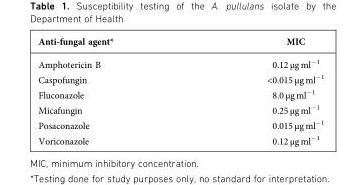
<table><thead><tr><td>Anti-fungal agent*</td><td>MIC</td></tr></thead><tbody><tr><td>Amphotericin B</td><td>0.12 µg ml<sup>−1</sup></td></tr><tr><td>Caspofungin</td><td>&lt;0.015 µg ml<sup>−1</sup></td></tr><tr><td>Fluconazole</td><td>8.0 µg ml<sup>−1</sup></td></tr><tr><td>Micafungin</td><td>0.25 µg ml<sup>−1</sup></td></tr><tr><td>Posaconazole</td><td>0.015 µg ml<sup>−1</sup></td></tr><tr><td>Voriconazole</td><td>0.12 µg ml<sup>−1</sup></td></tr></tbody></table>